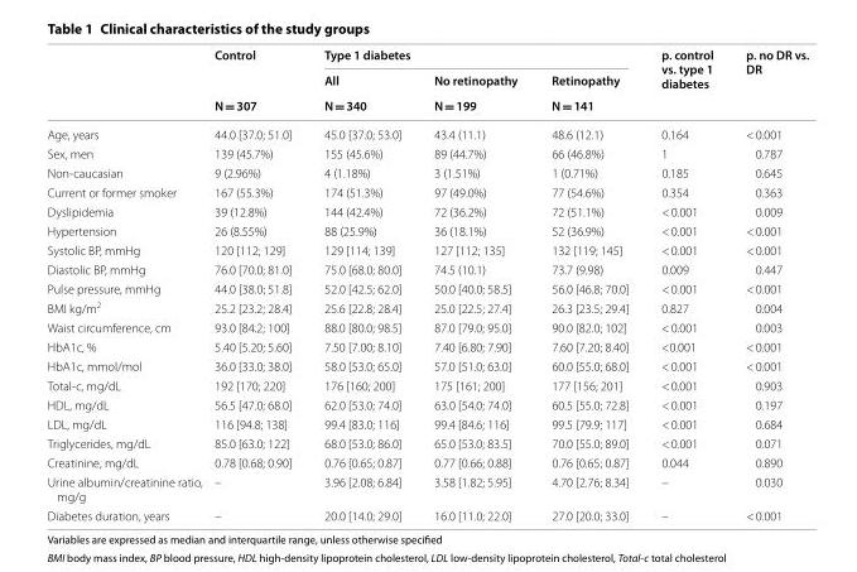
<table><thead><tr><td rowspan="3"></td><td rowspan="3">Control N = 307</td><td colspan="3">Type 1 diabetes</td><td rowspan="3">p. control vs. type 1 diabetes</td><td rowspan="3">p. no DR vs. DR</td></tr><tr><td rowspan="2">All N = 340</td><td rowspan="2">No retinopathy N = 199</td><td rowspan="2">Retinopathy N = 141</td></tr><tr></tr></thead><tbody><tr><td>Age, years</td><td>44.0 [37.0; 51.0]</td><td>45.0 [37.0; 53.0]</td><td>43.4 (11.1)</td><td>48.6 (12.1)</td><td>0.164</td><td>&lt; 0.001</td></tr><tr><td>Sex, men</td><td>139 (45.7%)</td><td>155 (45.6%)</td><td>89 (44.7%)</td><td>66 (46.8%)</td><td>1</td><td>0.787</td></tr><tr><td>Non‑caucasian</td><td>9 (2.96%)</td><td>4 (1.18%)</td><td>3 (1.51%)</td><td>1 (0.71%)</td><td>0.185</td><td>0.645</td></tr><tr><td>Current or former smoker</td><td>167 (55.3%)</td><td>174 (51.3%)</td><td>97 (49.0%)</td><td>77 (54.6%)</td><td>0.354</td><td>0.363</td></tr><tr><td>Dyslipidemia</td><td>39 (12.8%)</td><td>144 (42.4%)</td><td>72 (36.2%)</td><td>72 (51.1%)</td><td>&lt; 0.001</td><td>0.009</td></tr><tr><td>Hypertension</td><td>26 (8.55%)</td><td>88 (25.9%)</td><td>36 (18.1%)</td><td>52 (36.9%)</td><td>&lt; 0.001</td><td>&lt; 0.001</td></tr><tr><td>Systolic BP, mmHg</td><td>120 [112; 129]</td><td>129 [114; 139]</td><td>127 [112; 135]</td><td>132 [119; 145]</td><td>&lt; 0.001</td><td>&lt; 0.001</td></tr><tr><td>Diastolic BP, mmHg</td><td>76.0 [70.0; 81.0]</td><td>75.0 [68.0; 80.0]</td><td>74.5 (10.1)</td><td>73.7 (9.98)</td><td>0.009</td><td>0.447</td></tr><tr><td>Pulse pressure, mmHg</td><td>44.0 [38.0; 51.8]</td><td>52.0 [42.5; 62.0]</td><td>50.0 [40.0; 58.5]</td><td>56.0 [46.8; 70.0]</td><td>&lt; 0.001</td><td>&lt; 0.001</td></tr><tr><td>BMI kg/m<sup>2</sup></td><td>25.2 [23.2; 28.4]</td><td>25.6 [22.8; 28.4]</td><td>25.0 [22.5; 27.4]</td><td>26.3 [23.5; 29.4]</td><td>0.827</td><td>0.004</td></tr><tr><td>Waist circumference, cm</td><td>93.0 [84.2; 100]</td><td>88.0 [80.0; 98.5]</td><td>87.0 [79.0; 95.0]</td><td>90.0 [82.0; 102]</td><td>&lt; 0.001</td><td>0.003</td></tr><tr><td>HbA1c, %</td><td>5.40 [5.20; 5.60]</td><td>7.50 [7.00; 8.10]</td><td>7.40 [6.80; 7.90]</td><td>7.60 [7.20; 8.40]</td><td>&lt;0.001</td><td>&lt; 0.001</td></tr><tr><td>HbA1c, mmol/mol</td><td>36.0 [33.0; 38.0]</td><td>58.0 [53.0; 65.0]</td><td>57.0 [51.0; 63.0]</td><td>60.0 [55.0; 68.0]</td><td>&lt; 0.001</td><td>&lt; 0.001</td></tr><tr><td>Total‑c, mg/dL</td><td>192 [170; 220]</td><td>176 [160; 200]</td><td>175 [161; 200]</td><td>177 [156; 201]</td><td>&lt; 0.001</td><td>0.903</td></tr><tr><td>HDL, mg/dL</td><td>56.5 [47.0; 68.0]</td><td>62.0 [53.0; 74.0]</td><td>63.0 [54.0; 74.0]</td><td>60.5 [55.0; 72.8]</td><td>&lt; 0.001</td><td>0.197</td></tr><tr><td>LDL, mg/dL</td><td>116 [94.8; 138]</td><td>99.4 [83.0; 116]</td><td>99.4 [84.6; 116]</td><td>99.5 [79.9; 117]</td><td>&lt; 0.001</td><td>0.684</td></tr><tr><td>Triglycerides, mg/dL</td><td>85.0 [63.0; 122]</td><td>68.0 [53.0; 86.0]</td><td>65.0 [53.0; 83.5]</td><td>70.0 [55.0; 89.0]</td><td>&lt; 0.001</td><td>0.071</td></tr><tr><td>Creatinine, mg/dL</td><td>0.78 [0.68; 0.90]</td><td>0.76 [0.65; 0.87]</td><td>0.77 [0.66; 0.88]</td><td>0.76 [0.65; 0.87]</td><td>0.044</td><td>0.890</td></tr><tr><td>Urine albumin/creatinine ratio, mg/g</td><td>–</td><td>3.96 [2.08; 6.84]</td><td>3.58 [1.82; 5.95]</td><td>4.70 [2.76; 8.34]</td><td>–</td><td>0.030</td></tr><tr><td>Diabetes duration, years</td><td>–</td><td>20.0 [14.0; 29.0]</td><td>16.0 [11.0; 22.0]</td><td>27.0 [20.0; 33.0]</td><td>–</td><td>&lt; 0.001</td></tr></tbody></table>